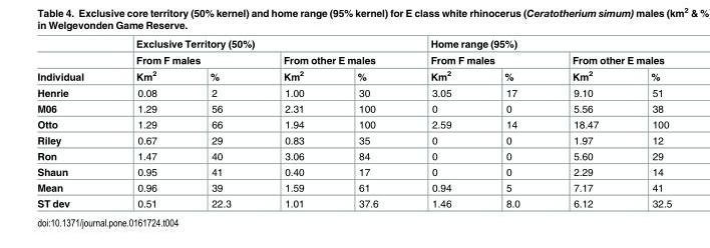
<table><thead><tr><td rowspan="3">Individual</td><td colspan="4">Exclusive Territory (50%)</td><td colspan="4">Home range (95%)</td></tr><tr><td colspan="2">From F males</td><td colspan="2">From other E males</td><td colspan="2">From F males</td><td colspan="2">From other E males</td></tr><tr><td>Km<sup>2</sup></td><td>%</td><td>Km<sup>2</sup></td><td>%</td><td>Km<sup>2</sup></td><td>%</td><td>Km<sup>2</sup></td><td>%</td></tr></thead><tbody><tr><td>Henrie</td><td>0.08</td><td>2</td><td>1.00</td><td>30</td><td>3.05</td><td>17</td><td>9.10</td><td>51</td></tr><tr><td>M06</td><td>1.29</td><td>56</td><td>2.31</td><td>100</td><td>0</td><td>0</td><td>5.56</td><td>38</td></tr><tr><td>Otto</td><td>1.29</td><td>66</td><td>1.94</td><td>100</td><td>2.59</td><td>14</td><td>18.47</td><td>100</td></tr><tr><td>Riley</td><td>0.67</td><td>29</td><td>0.83</td><td>35</td><td>0</td><td>0</td><td>1.97</td><td>12</td></tr><tr><td>Ron</td><td>1.47</td><td>40</td><td>3.06</td><td>84</td><td>0</td><td>0</td><td>5.60</td><td>29</td></tr><tr><td>Shaun</td><td>0.95</td><td>41</td><td>0.40</td><td>17</td><td>0</td><td>0</td><td>2.29</td><td>14</td></tr><tr><td>Mean</td><td>0.96</td><td>39</td><td>1.59</td><td>61</td><td>0.94</td><td>5</td><td>7.17</td><td>41</td></tr><tr><td>ST dev</td><td>0.51</td><td>22.3</td><td>1.01</td><td>37.6</td><td>1.46</td><td>8.0</td><td>6.12</td><td>32.5</td></tr></tbody></table>